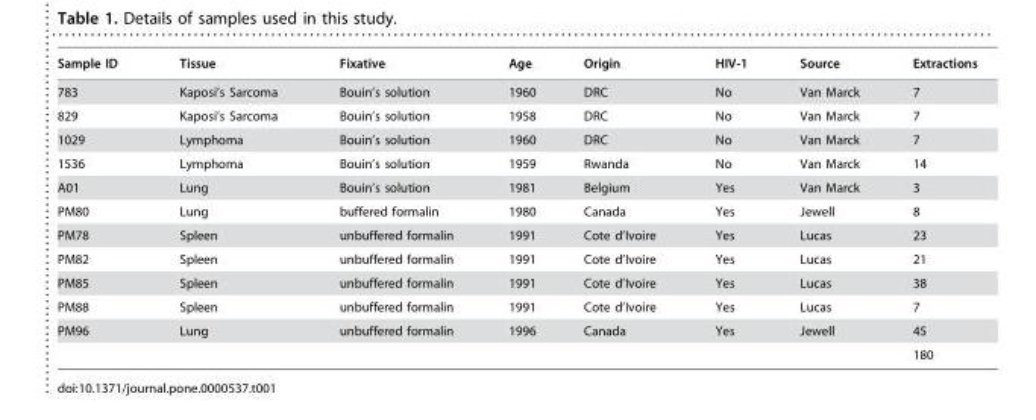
<table><thead><tr><td>Sample ID</td><td>Tissue</td><td>Fixative</td><td>Age</td><td>Origin</td><td>HIV-1</td><td>Source</td><td>Extractions</td></tr></thead><tbody><tr><td>783</td><td>Kaposi’s Sarcoma</td><td>Bouin’s solution</td><td>1960</td><td>DRC</td><td>No</td><td>Van Marck</td><td>7</td></tr><tr><td>829</td><td>Kaposi’s Sarcoma</td><td>Bouin’s solution</td><td>1958</td><td>DRC</td><td>No</td><td>Van Marck</td><td>7</td></tr><tr><td>1029</td><td>Lymphoma</td><td>Bouin’s solution</td><td>1960</td><td>DRC</td><td>No</td><td>Van Marck</td><td>7</td></tr><tr><td>1536</td><td>Lymphoma</td><td>Bouin’s solution</td><td>1959</td><td>Rwanda</td><td>No</td><td>Van Marck</td><td>14</td></tr><tr><td>A01</td><td>Lung</td><td>Bouin’s solution</td><td>1981</td><td>Belgium</td><td>Yes</td><td>Van Marck</td><td>3</td></tr><tr><td>PM80</td><td>Lung</td><td>buffered formalin</td><td>1980</td><td>Canada</td><td>Yes</td><td>Jewell</td><td>8</td></tr><tr><td>PM78</td><td>Spleen</td><td>unbuffered formalin</td><td>1991</td><td>Cote d’Ivoire</td><td>Yes</td><td>Lucas</td><td>23</td></tr><tr><td>PM82</td><td>Spleen</td><td>unbuffered formalin</td><td>1991</td><td>Cote d’Ivoire</td><td>Yes</td><td>Lucas</td><td>21</td></tr><tr><td>PM85</td><td>Spleen</td><td>unbuffered formalin</td><td>1991</td><td>Cote d’Ivoire</td><td>Yes</td><td>Lucas</td><td>38</td></tr><tr><td>PM88</td><td>Spleen</td><td>unbuffered formalin</td><td>1991</td><td>Cote d’Ivoire</td><td>Yes</td><td>Lucas</td><td>7</td></tr><tr><td rowspan="2">PM96</td><td>Lung</td><td>unbuffered formalin</td><td>1996</td><td>Canada</td><td>Yes</td><td>Jewell</td><td>45</td></tr><tr><td></td><td></td><td></td><td></td><td></td><td></td><td>180</td></tr></tbody></table>